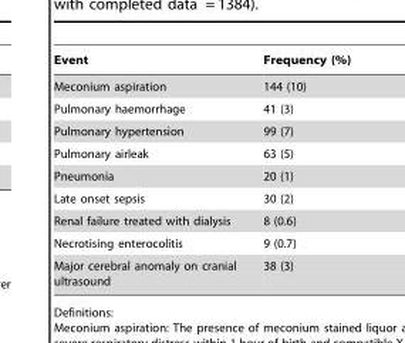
<table><thead><tr><td>Event</td><td>Frequency (%)</td></tr></thead><tbody><tr><td>Meconium aspiration</td><td>144 (10)</td></tr><tr><td>Pulmonary haemorrhage</td><td>41 (3)</td></tr><tr><td>Pulmonary hypertension</td><td>99 (7)</td></tr><tr><td>Pulmonary airleak</td><td>63 (5)</td></tr><tr><td>Pneumonia</td><td>20 (1)</td></tr><tr><td>Late onset sepsis</td><td>30 (2)</td></tr><tr><td>Renal failure treated with dialysis</td><td>8 (0.6)</td></tr><tr><td>Necrotising enterocolitis</td><td>9 (0.7)</td></tr><tr><td>Major cerebral anomaly on cranial ultrasound</td><td>38 (3)</td></tr></tbody></table>